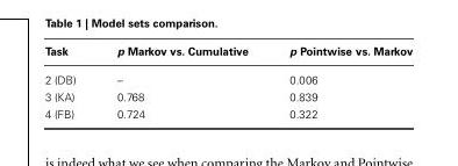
<table><thead><tr><td>Task</td><td>p Markov vs. Cumulative</td><td>p Pointwise vs. Markov</td></tr></thead><tbody><tr><td>2 (DB)</td><td>–</td><td>0.006</td></tr><tr><td>3 (KA)</td><td>0.768</td><td>0.839</td></tr><tr><td>4 (FB)</td><td>0.724</td><td>0.322</td></tr></tbody></table>